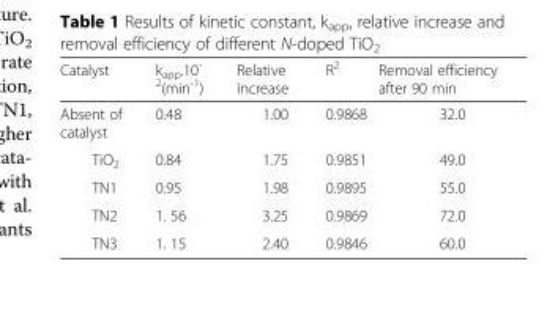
<table><thead><tr><td>Catalyst</td><td>k<sub>app</sub>.10<sup>- 2</sup>(min<sup>-1</sup>)</td><td>Relative increase</td><td>R<sup>2</sup></td><td>Removal efficiency after 90 min</td></tr></thead><tbody><tr><td>Absent of catalyst</td><td>0.48</td><td>1.00</td><td>0.9868</td><td>32.0</td></tr><tr><td>TiO<sub>2</sub></td><td>0.84</td><td>1.75</td><td>0.9851</td><td>49.0</td></tr><tr><td>TN1</td><td>0.95</td><td>1.98</td><td>0.9895</td><td>55.0</td></tr><tr><td>TN2</td><td>1. 56</td><td>3.25</td><td>0.9869</td><td>72.0</td></tr><tr><td>TN3</td><td>1. 15</td><td>2.40</td><td>0.9846</td><td>60.0</td></tr></tbody></table>